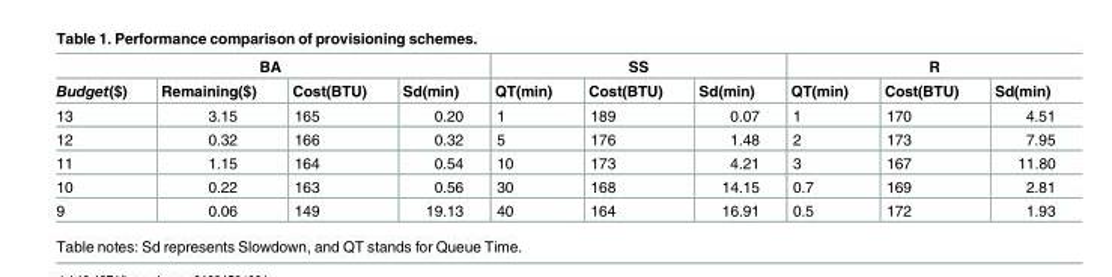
<table><thead><tr><td colspan="4">BA</td><td colspan="3">SS</td><td colspan="3">R</td></tr><tr><td>Budget($)</td><td>Remaining($)</td><td>Cost(BTU)</td><td>Sd(min)</td><td>QT(min)</td><td>Cost(BTU)</td><td>Sd(min)</td><td>QT(min)</td><td>Cost(BTU)</td><td>Sd(min)</td></tr></thead><tbody><tr><td>13</td><td>3.15</td><td>165</td><td>0.20</td><td>1</td><td>189</td><td>0.07</td><td>1</td><td>170</td><td>4.51</td></tr><tr><td>12</td><td>0.32</td><td>166</td><td>0.32</td><td>5</td><td>176</td><td>1.48</td><td>2</td><td>173</td><td>7.95</td></tr><tr><td>11</td><td>1.15</td><td>164</td><td>0.54</td><td>10</td><td>173</td><td>4.21</td><td>3</td><td>167</td><td>11.80</td></tr><tr><td>10</td><td>0.22</td><td>163</td><td>0.56</td><td>30</td><td>168</td><td>14.15</td><td>0.7</td><td>169</td><td>2.81</td></tr><tr><td>9</td><td>0.06</td><td>149</td><td>19.13</td><td>40</td><td>164</td><td>16.91</td><td>0.5</td><td>172</td><td>1.93</td></tr></tbody></table>